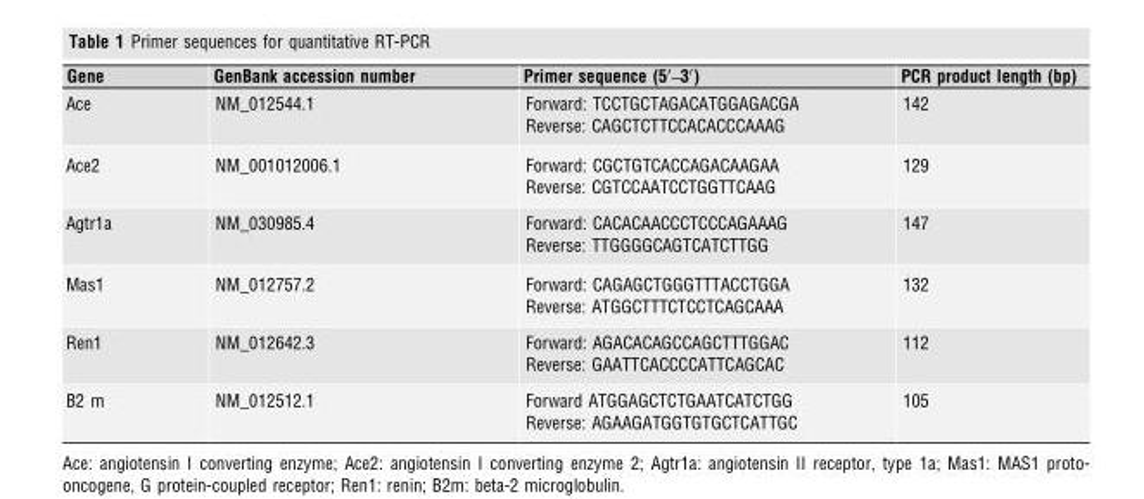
<table><thead><tr><td>Gene</td><td>GenBank accession number</td><td>Primer sequence (5′–3′)</td><td>PCR product length (bp)</td></tr></thead><tbody><tr><td rowspan="2">Ace</td><td>NM_012544.1</td><td>Forward: TCCTGCTAGACATGGAGACGA</td><td>142</td></tr><tr><td></td><td>Reverse: CAGCTCTTCCACACCCAAAG</td><td></td></tr><tr><td rowspan="2">Ace2</td><td>NM_001012006.1</td><td>Forward: CGCTGTCACCAGACAAGAA</td><td>129</td></tr><tr><td></td><td>Reverse: CGTCCAATCCTGGTTCAAG</td><td></td></tr><tr><td rowspan="2">Agtr1a</td><td>NM_030985.4</td><td>Forward: CACACAACCCTCCCAGAAAG</td><td>147</td></tr><tr><td></td><td>Reverse: TTGGGGCAGTCATCTTGG</td><td></td></tr><tr><td rowspan="2">Mas1</td><td>NM_012757.2</td><td>Forward: CAGAGCTGGGTTTACCTGGA</td><td>132</td></tr><tr><td></td><td>Reverse: ATGGCTTTCTCCTCAGCAAA</td><td></td></tr><tr><td rowspan="2">Ren1</td><td>NM_012642.3</td><td>Forward: AGACACAGCCAGCTTTGGAC</td><td>112</td></tr><tr><td></td><td>Reverse: GAATTCACCCCATTCAGCAC</td><td></td></tr><tr><td rowspan="2">B2 m</td><td>NM_012512.1</td><td>Forward ATGGAGCTCTGAATCATCTGG</td><td>105</td></tr><tr><td></td><td>Reverse: AGAAGATGGTGTGCTCATTGC</td><td></td></tr></tbody></table>